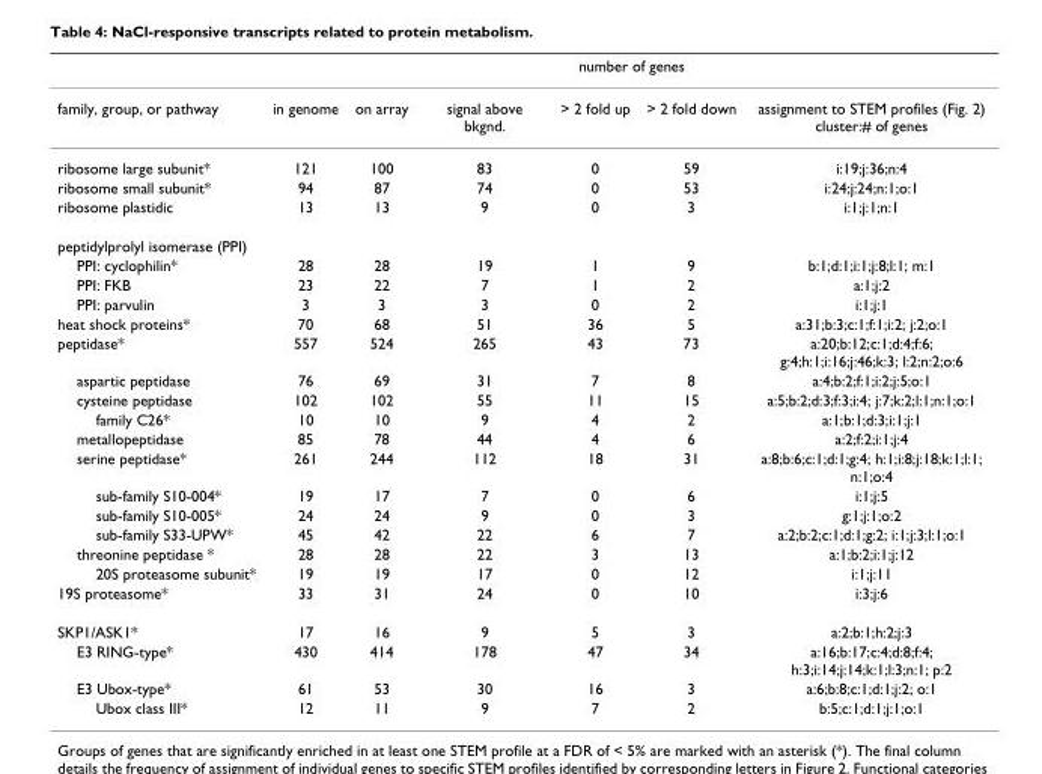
<table><thead><tr><td rowspan="2">family, group, or pathway</td><td colspan="6">number of genes</td></tr><tr><td>in genome</td><td>on array</td><td>signal above bkgnd.</td><td>&gt; 2 fold up</td><td>&gt; 2 fold down</td><td>assignment to STEM profiles (Fig. 2) cluster:# of genes</td></tr></thead><tbody><tr><td>ribosome large subunit*</td><td>121</td><td>100</td><td>83</td><td>0</td><td>59</td><td>i:19;j:36;n:4</td></tr><tr><td>ribosome small subunit*</td><td>94</td><td>87</td><td>74</td><td>0</td><td>53</td><td>i:24;j:24;n:1;o:1</td></tr><tr><td>ribosome plastidic</td><td>13</td><td>13</td><td>9</td><td>0</td><td>3</td><td>i:1;j:1;n:1</td></tr><tr><td colspan="7">peptidylprolyl isomerase (PPI)</td></tr><tr><td>PPI: cyclophilin*</td><td>28</td><td>28</td><td>19</td><td>1</td><td>9</td><td>b:1;d:1;i:1;j:8;l:1; m:1</td></tr><tr><td>PPI: FKB</td><td>23</td><td>22</td><td>7</td><td>1</td><td>2</td><td>a:1;j:2</td></tr><tr><td>PPI: parvulin</td><td>3</td><td>3</td><td>3</td><td>0</td><td>2</td><td>i:1;j:1</td></tr><tr><td>heat shock proteins*</td><td>70</td><td>68</td><td>51</td><td>36</td><td>5</td><td>a:31;b:3;c:1;f:1;i:2; j:2;o:1</td></tr><tr><td>peptidase*</td><td>557</td><td>524</td><td>265</td><td>43</td><td>73</td><td>a:20;b:12;c:1;d:4;f:6; g:4;h:1;i:16;j:46;k:3; l:2;n:2;o:6</td></tr><tr><td>aspartic peptidase</td><td>76</td><td>69</td><td>31</td><td>7</td><td>8</td><td>a:4;b:2;f:1;i:2;j:5;o:1</td></tr><tr><td>cysteine peptidase</td><td>102</td><td>102</td><td>55</td><td>11</td><td>15</td><td>a:5;b:2;d:3;f:3;i:4; j:7;k:2;l:1;n:1;o:1</td></tr><tr><td>family C26*</td><td>10</td><td>10</td><td>9</td><td>4</td><td>2</td><td>a:1;b:1;d:3;i:1;j:1</td></tr><tr><td>metallopeptidase</td><td>85</td><td>78</td><td>44</td><td>4</td><td>6</td><td>a:2;f:2;i:1;j:4</td></tr><tr><td>serine peptidase*</td><td>261</td><td>244</td><td>112</td><td>18</td><td>31</td><td>a:8;b:6;c:1;d:1;g:4; h:1;i:8;j:18;k:1;l:1; n:1;o:4</td></tr><tr><td>sub-family S10-004*</td><td>19</td><td>17</td><td>7</td><td>0</td><td>6</td><td>i:1;j:5</td></tr><tr><td>sub-family S10-005*</td><td>24</td><td>24</td><td>9</td><td>0</td><td>3</td><td>g:1;j:1;o:2</td></tr><tr><td>sub-family S33-UPW*</td><td>45</td><td>42</td><td>22</td><td>6</td><td>7</td><td>a:2;b:2;c:1;d:1;g:2; i:1;j:3;l:1;o:1</td></tr><tr><td>threonine peptidase *</td><td>28</td><td>28</td><td>22</td><td>3</td><td>13</td><td>a:1;b:2;i:1;j:12</td></tr><tr><td>20S proteasome subunit*</td><td>19</td><td>19</td><td>17</td><td>0</td><td>12</td><td>i:1;j:11</td></tr><tr><td>19S proteasome*</td><td>33</td><td>31</td><td>24</td><td>0</td><td>10</td><td>i:3;j:6</td></tr><tr><td>SKP1/ASK1*</td><td>17</td><td>16</td><td>9</td><td>5</td><td>3</td><td>a:2;b:1;h:2;j:3</td></tr><tr><td>E3 RING-type*</td><td>430</td><td>414</td><td>178</td><td>47</td><td>34</td><td>a:16;b:17;c:4;d:8;f:4; h:3;i:14;j:14;k:1;l:3;n:1; p:2</td></tr><tr><td>E3 Ubox-type*</td><td>61</td><td>53</td><td>30</td><td>16</td><td>3</td><td>a:6;b:8;c:1;d:1;j:2; o:1</td></tr><tr><td>Ubox class III*</td><td>12</td><td>11</td><td>9</td><td>7</td><td>2</td><td>b:5;c:1;d:1;j:1;o:1</td></tr></tbody></table>